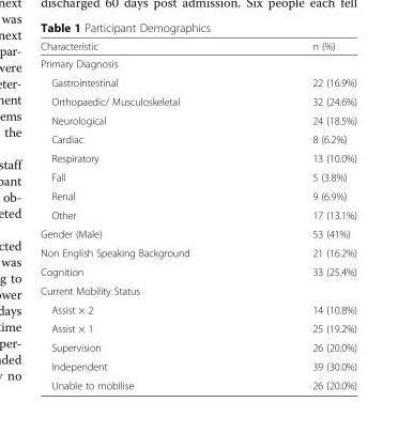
<table><thead><tr><td>Characteristic</td><td>n (%)</td></tr></thead><tbody><tr><td colspan="2">Primary Diagnosis</td></tr><tr><td>Gastrointestinal</td><td>22 (16.9%)</td></tr><tr><td>Orthopaedic/ Musculoskeletal</td><td>32 (24.6%)</td></tr><tr><td>Neurological</td><td>24 (18.5%)</td></tr><tr><td>Cardiac</td><td>8 (6.2%)</td></tr><tr><td>Respiratory</td><td>13 (10.0%)</td></tr><tr><td>Fall</td><td>5 (3.8%)</td></tr><tr><td>Renal</td><td>9 (6.9%)</td></tr><tr><td>Other</td><td>17 (13.1%)</td></tr><tr><td>Gender (Male)</td><td>53 (41%)</td></tr><tr><td>Non English Speaking Background</td><td>21 (16.2%)</td></tr><tr><td>Cognition</td><td>33 (25.4%)</td></tr><tr><td colspan="2">Current Mobility Status</td></tr><tr><td>Assist × 2</td><td>14 (10.8%)</td></tr><tr><td>Assist × 1</td><td>25 (19.2%)</td></tr><tr><td>Supervision</td><td>26 (20.0%)</td></tr><tr><td>Independent</td><td>39 (30.0%)</td></tr><tr><td>Unable to mobilise</td><td>26 (20.0%)</td></tr></tbody></table>